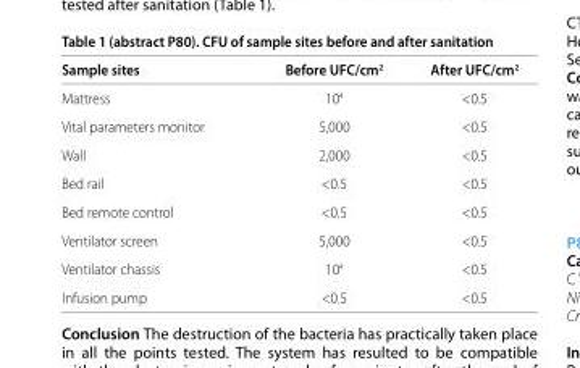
<table><thead><tr><td>Sample sites</td><td>Before UFC/cm<sup>2</sup></td><td>After UFC/cm<sup>2</sup></td></tr></thead><tbody><tr><td>Mattress</td><td>10<sup>4</sup></td><td>&lt;0.5</td></tr><tr><td>Vital parameters monitor</td><td>5,000</td><td>&lt;0.5</td></tr><tr><td>Wall</td><td>2,000</td><td>&lt;0.5</td></tr><tr><td>Bed rail</td><td>&lt;0.5</td><td>&lt;0.5</td></tr><tr><td>Bed remote control</td><td>&lt;0.5</td><td>&lt;0.5</td></tr><tr><td>Ventilator screen</td><td>5,000</td><td>&lt;0.5</td></tr><tr><td>Ventilator chassis</td><td>10<sup>4</sup></td><td>&lt;0.5</td></tr><tr><td>Infusion pump</td><td>&lt;0.5</td><td>&lt;0.5</td></tr></tbody></table>